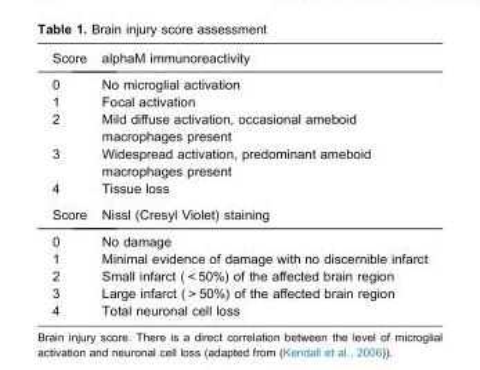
<table><thead><tr><td>Score</td><td>alphaM immunoreactivity</td></tr></thead><tbody><tr><td>0</td><td>No microglial activation</td></tr><tr><td>1</td><td>Focal activation</td></tr><tr><td>2</td><td>Mild diffuse activation, occasional ameboid macrophages present</td></tr><tr><td>3</td><td>Widespread activation, predominant ameboid macrophages present</td></tr><tr><td>4</td><td>Tissue loss</td></tr><tr><td>Score</td><td>Nissl (Cresyl Violet) staining</td></tr><tr><td>0</td><td>No damage</td></tr><tr><td>1</td><td>Minimal evidence of damage with no discernible infarct</td></tr><tr><td>2</td><td>Small infarct (&lt;50%) of the affected brain region</td></tr><tr><td>3</td><td>Large infarct (&gt;50%) of the affected brain region</td></tr><tr><td>4</td><td>Total neuronal cell loss</td></tr></tbody></table>